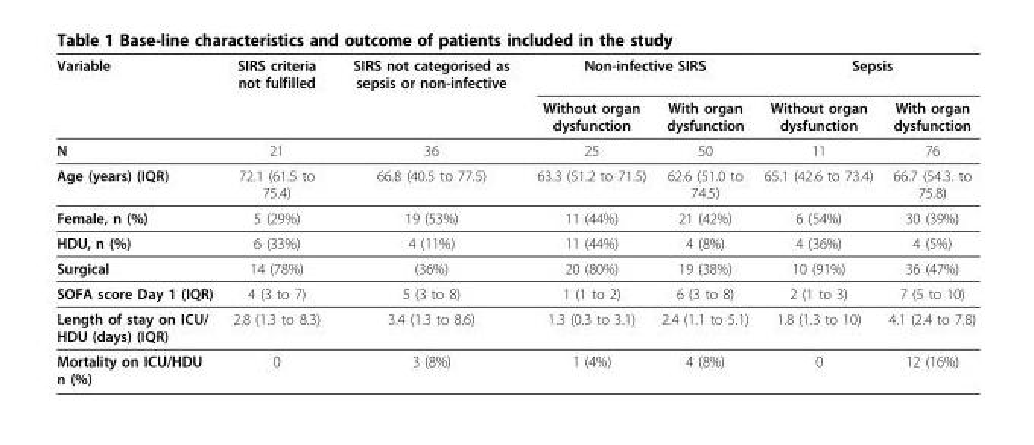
<table><thead><tr><td rowspan="2">Variable</td><td rowspan="2">SIRS criteria not fulfilled</td><td rowspan="2">SIRS not categorised as sepsis or non-infective</td><td colspan="2">Non-infective SIRS</td><td colspan="2">Sepsis</td></tr><tr><td>Without organ dysfunction</td><td>With organ dysfunction</td><td>Without organ dysfunction</td><td>With organ dysfunction</td></tr></thead><tbody><tr><td>N</td><td>21</td><td>36</td><td>25</td><td>50</td><td>11</td><td>76</td></tr><tr><td>Age (years) (IQR)</td><td>72.1 (61.5 to 75.4)</td><td>66.8 (40.5 to 77.5)</td><td>63.3 (51.2 to 71.5)</td><td>62.6 (51.0 to 74.5)</td><td>65.1 (42.6 to 73.4)</td><td>66.7 (54.3. to 75.8)</td></tr><tr><td>Female, n (%)</td><td>5 (29%)</td><td>19 (53%)</td><td>11 (44%)</td><td>21 (42%)</td><td>6 (54%)</td><td>30 (39%)</td></tr><tr><td>HDU, n (%)</td><td>6 (33%)</td><td>4 (11%)</td><td>11 (44%)</td><td>4 (8%)</td><td>4 (36%)</td><td>4 (5%)</td></tr><tr><td>Surgical</td><td>14 (78%)</td><td>(36%)</td><td>20 (80%)</td><td>19 (38%)</td><td>10 (91%)</td><td>36 (47%)</td></tr><tr><td>SOFA score Day 1 (IQR)</td><td>4 (3 to 7)</td><td>5 (3 to 8)</td><td>1 (1 to 2)</td><td>6 (3 to 8)</td><td>2 (1 to 3)</td><td>7 (5 to 10)</td></tr><tr><td>Length of stay on ICU/ HDU (days) (IQR)</td><td>2.8 (1.3 to 8.3)</td><td>3.4 (1.3 to 8.6)</td><td>1.3 (0.3 to 3.1)</td><td>2.4 (1.1 to 5.1)</td><td>1.8 (1.3 to 10)</td><td>4.1 (2.4 to 7.8)</td></tr><tr><td>Mortality on ICU/HDU n (%)</td><td>0</td><td>3 (8%)</td><td>1 (4%)</td><td>4 (8%)</td><td>0</td><td>12 (16%)</td></tr></tbody></table>